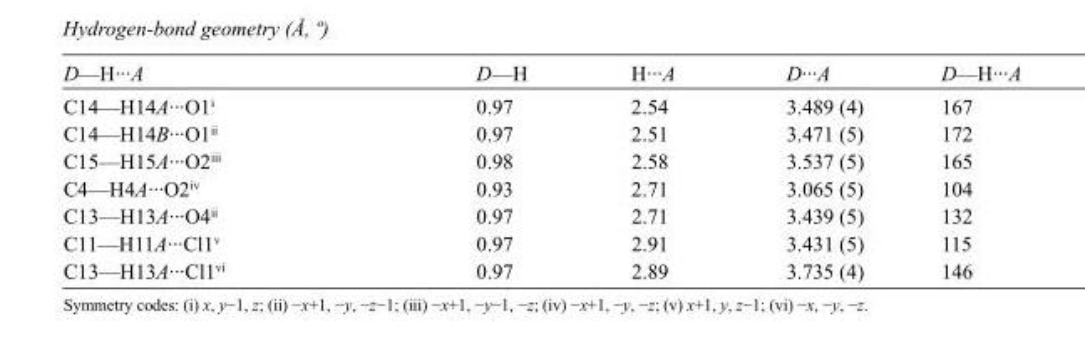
<table><tbody><tr><td>D—H···A</td><td>D—H</td><td>H···A</td><td>D···A</td><td>D—H···A</td></tr><tr><td>C14—H14A···O1<sup>i</sup></td><td>0.97</td><td>2.54</td><td>3.489 (4)</td><td>167</td></tr><tr><td>C14—H14B···O1<sup>ii</sup></td><td>0.97</td><td>2.51</td><td>3.471 (5)</td><td>172</td></tr><tr><td>C15—H15A···O2<sup>iii</sup></td><td>0.98</td><td>2.58</td><td>3.537 (5)</td><td>165</td></tr><tr><td>C4—H4A···O2<sup>iv</sup></td><td>0.93</td><td>2.71</td><td>3.065 (5)</td><td>104</td></tr><tr><td>C13—H13A···O4<sup>ii</sup></td><td>0.97</td><td>2.71</td><td>3.439 (5)</td><td>132</td></tr><tr><td>C11—H11A···Cl1<sup>v</sup></td><td>0.97</td><td>2.91</td><td>3.431 (5)</td><td>115</td></tr><tr><td>C13—H13A···Cl1<sup>vi</sup></td><td>0.97</td><td>2.89</td><td>3.735 (4)</td><td>146</td></tr></tbody></table>